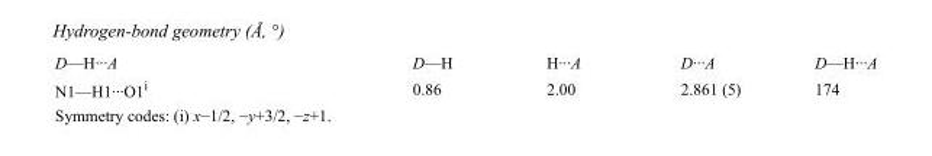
<table><tbody><tr><td>D—H···A</td><td>D—H</td><td>H···A</td><td>D···A</td><td>D—H···A</td></tr><tr><td>N1—H1···O1<sup>i</sup></td><td>0.86</td><td>2.00</td><td>2.861 (5)</td><td>174</td></tr></tbody></table>